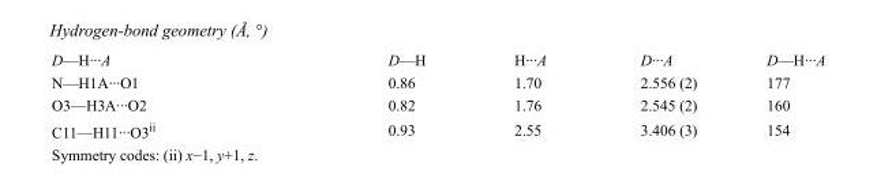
<table><tbody><tr><td>D—H···A</td><td>D—H</td><td>H···A</td><td>D···A</td><td>D—H···A</td></tr><tr><td>N—H1A···O1</td><td>0.86</td><td>1.70</td><td>2.556 (2)</td><td>177</td></tr><tr><td>O3—H3A···O2</td><td>0.82</td><td>1.76</td><td>2.545 (2)</td><td>160</td></tr><tr><td>C11—H11···O3<sup>ii</sup></td><td>0.93</td><td>2.55</td><td>3.406 (3)</td><td>154</td></tr></tbody></table>